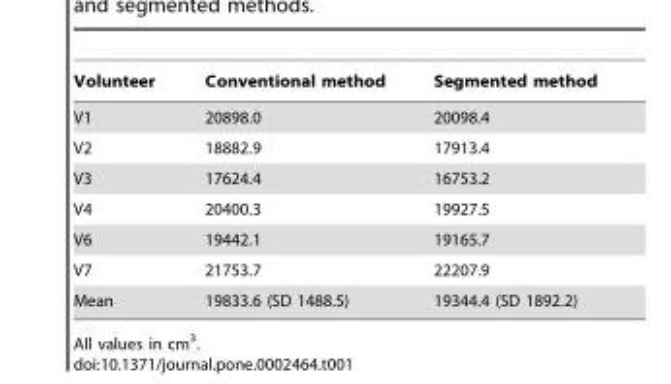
<table><thead><tr><td>Volunteer</td><td>Conventional method</td><td>Segmented method</td></tr></thead><tbody><tr><td>V1</td><td>20898.0</td><td>20098.4</td></tr><tr><td>V2</td><td>18882.9</td><td>17913.4</td></tr><tr><td>V3</td><td>17624.4</td><td>16753.2</td></tr><tr><td>V4</td><td>20400.3</td><td>19927.5</td></tr><tr><td>V6</td><td>19442.1</td><td>19165.7</td></tr><tr><td>V7</td><td>21753.7</td><td>22207.9</td></tr><tr><td>Mean</td><td>19833.6 (SD 1488.5)</td><td>19344.4 (SD 1892.2)</td></tr></tbody></table>